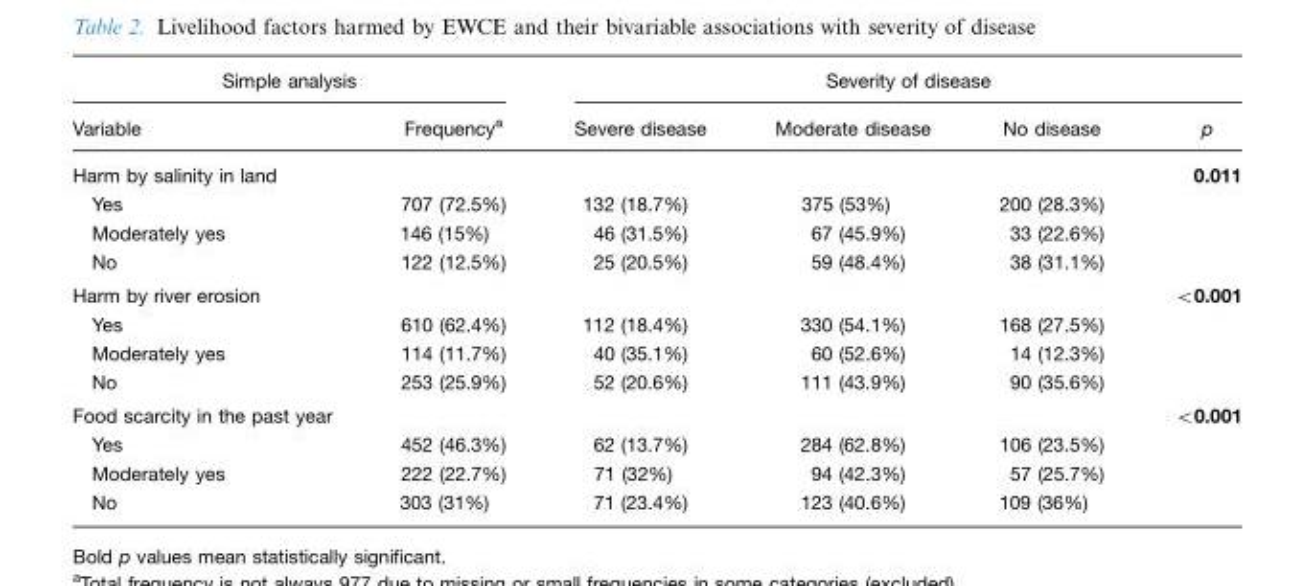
<table><thead><tr><td colspan="2">Simple analysis</td><td colspan="4">Severity of disease</td></tr><tr><td>Variable</td><td>Frequency<sup>a</sup></td><td>Severe disease</td><td>Moderate disease</td><td>No disease</td><td>p</td></tr></thead><tbody><tr><td>Harm by salinity in land</td><td></td><td></td><td></td><td></td><td>0.011</td></tr><tr><td>Yes</td><td>707 (72.5%)</td><td>132 (18.7%)</td><td>375 (53%)</td><td>200 (28.3%)</td><td></td></tr><tr><td>Moderately yes</td><td>146 (15%)</td><td>46 (31.5%)</td><td>67 (45.9%)</td><td>33 (22.6%)</td><td></td></tr><tr><td>No</td><td>122 (12.5%)</td><td>25 (20.5%)</td><td>59 (48.4%)</td><td>38 (31.1%)</td><td></td></tr><tr><td>Harm by river erosion</td><td></td><td></td><td></td><td></td><td>&lt;0.001</td></tr><tr><td>Yes</td><td>610 (62.4%)</td><td>112 (18.4%)</td><td>330 (54.1%)</td><td>168 (27.5%)</td><td></td></tr><tr><td>Moderately yes</td><td>114 (11.7%)</td><td>40 (35.1%)</td><td>60 (52.6%)</td><td>14 (12.3%)</td><td></td></tr><tr><td>No</td><td>253 (25.9%)</td><td>52 (20.6%)</td><td>111 (43.9%)</td><td>90 (35.6%)</td><td></td></tr><tr><td>Food scarcity in the past year</td><td></td><td></td><td></td><td></td><td>&lt;0.001</td></tr><tr><td>Yes</td><td>452 (46.3%)</td><td>62 (13.7%)</td><td>284 (62.8%)</td><td>106 (23.5%)</td><td></td></tr><tr><td>Moderately yes</td><td>222 (22.7%)</td><td>71 (32%)</td><td>94 (42.3%)</td><td>57 (25.7%)</td><td></td></tr><tr><td>No</td><td>303 (31%)</td><td>71 (23.4%)</td><td>123 (40.6%)</td><td>109 (36%)</td><td></td></tr></tbody></table>